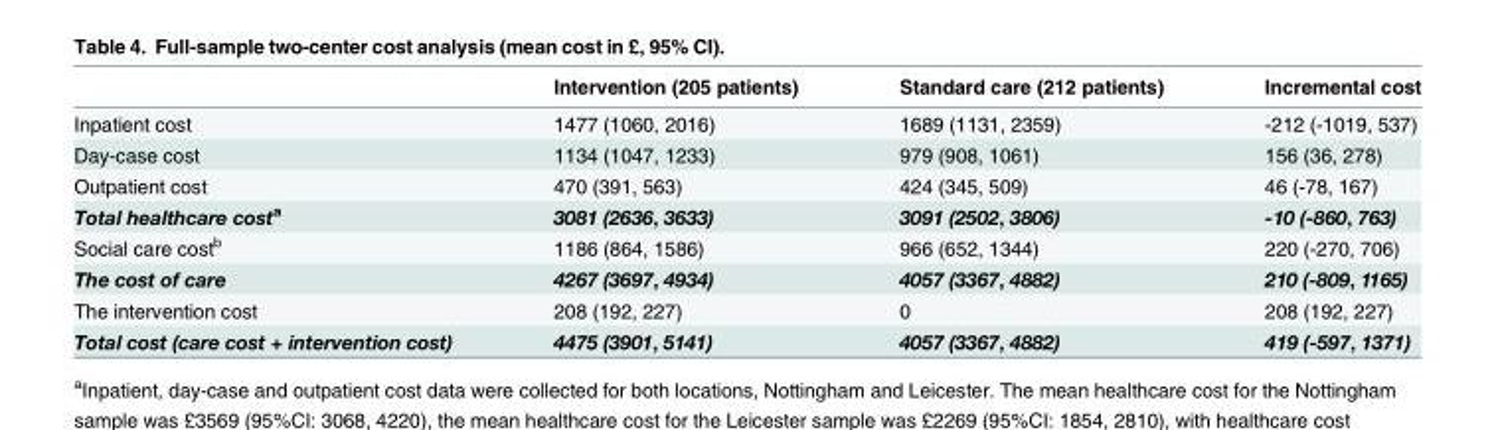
<table><thead><tr><td></td><td>Intervention (205 patients)</td><td>Standard care (212 patients)</td><td>Incremental cost</td></tr></thead><tbody><tr><td>Inpatient cost</td><td>1477 (1060, 2016)</td><td>1689 (1131, 2359)</td><td>-212 (-1019, 537)</td></tr><tr><td>Day-case cost</td><td>1134 (1047, 1233)</td><td>979 (908, 1061)</td><td>156 (36, 278)</td></tr><tr><td>Outpatient cost</td><td>470 (391, 563)</td><td>424 (345, 509)</td><td>46 (-78, 167)</td></tr><tr><td>Total healthcare cost<sup>a</sup></td><td>3081 (2636, 3633)</td><td>3091 (2502, 3806)</td><td>-10 (-860, 763)</td></tr><tr><td>Social care cost<sup>b</sup></td><td>1186 (864, 1586)</td><td>966 (652, 1344)</td><td>220 (-270, 706)</td></tr><tr><td>The cost of care</td><td>4267 (3697, 4934)</td><td>4057 (3367, 4882)</td><td>210 (-809, 1165)</td></tr><tr><td>The intervention cost</td><td>208 (192, 227)</td><td>0</td><td>208 (192, 227)</td></tr><tr><td>Total cost (care cost + intervention cost)</td><td>4475 (3901, 5141)</td><td>4057 (3367, 4882)</td><td>419 (-597, 1371)</td></tr></tbody></table>